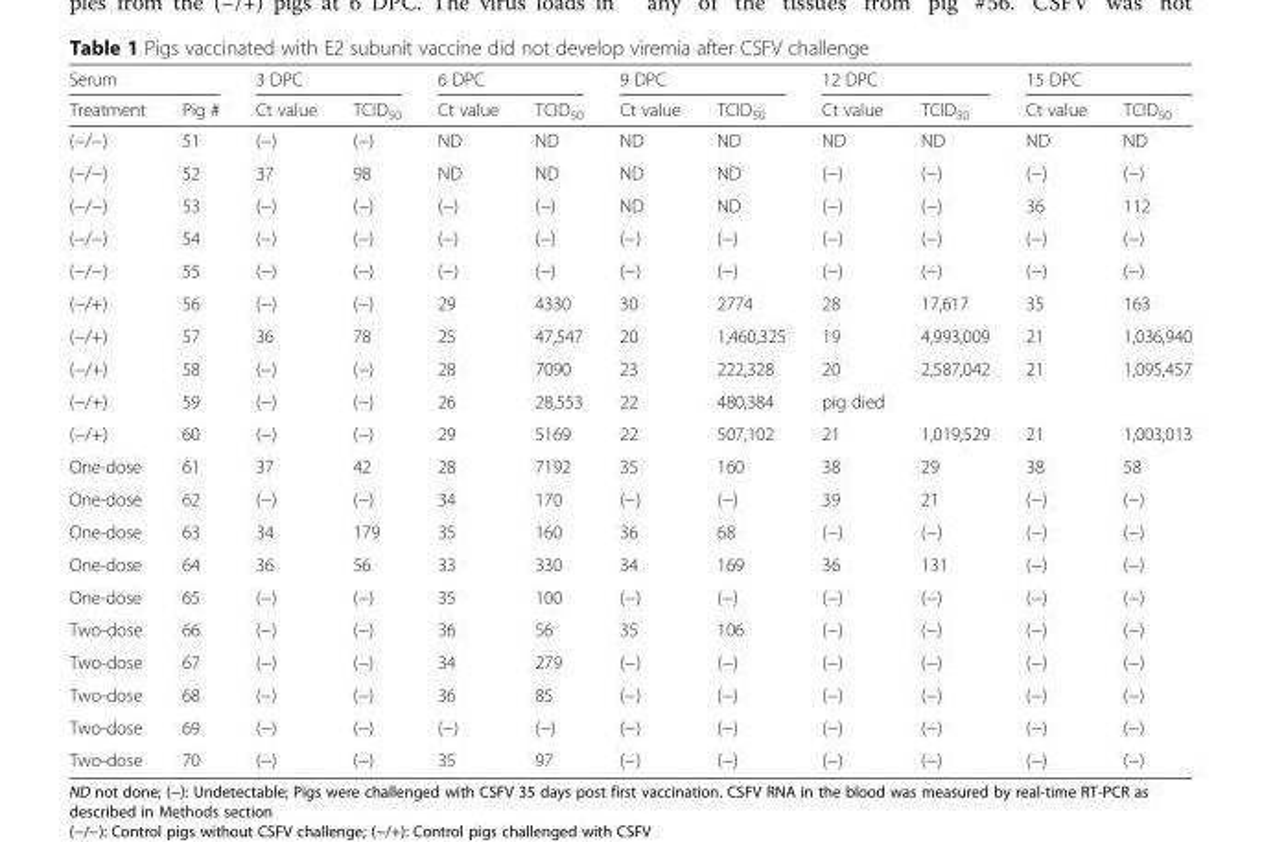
<table><thead><tr><td colspan="2">Serum</td><td colspan="2">3 DPC</td><td colspan="2">6 DPC</td><td colspan="2">9 DPC</td><td colspan="2">12 DPC</td><td colspan="2">15 DPC</td></tr><tr><td>Treatment</td><td>Pig #</td><td>Ct value</td><td>TCID<sub>50</sub></td><td>Ct value</td><td>TCID<sub>50</sub></td><td>Ct value</td><td>TCID<sub>50</sub></td><td>Ct value</td><td>TCID<sub>50</sub></td><td>Ct value</td><td>TCID<sub>50</sub></td></tr></thead><tbody><tr><td>(−/−)</td><td>51</td><td>(−)</td><td>(−)</td><td>ND</td><td>ND</td><td>ND</td><td>ND</td><td>ND</td><td>ND</td><td>ND</td><td>ND</td></tr><tr><td>(−/−)</td><td>52</td><td>37</td><td>98</td><td>ND</td><td>ND</td><td>ND</td><td>ND</td><td>(−)</td><td>(−)</td><td>(−)</td><td>(−)</td></tr><tr><td>(−/−)</td><td>53</td><td>(−)</td><td>(−)</td><td>(−)</td><td>(−)</td><td>ND</td><td>ND</td><td>(−)</td><td>(−)</td><td>36</td><td>112</td></tr><tr><td>(−/−)</td><td>54</td><td>(−)</td><td>(−)</td><td>(−)</td><td>(−)</td><td>(−)</td><td>(−)</td><td>(−)</td><td>(−)</td><td>(−)</td><td>(−)</td></tr><tr><td>(−/−)</td><td>55</td><td>(−)</td><td>(−)</td><td>(−)</td><td>(−)</td><td>(−)</td><td>(−)</td><td>(−)</td><td>(−)</td><td>(−)</td><td>(−)</td></tr><tr><td>(−/+)</td><td>56</td><td>(−)</td><td>(−)</td><td>29</td><td>4330</td><td>30</td><td>2774</td><td>28</td><td>17,617</td><td>35</td><td>163</td></tr><tr><td>(−/+)</td><td>57</td><td>36</td><td>78</td><td>25</td><td>47,547</td><td>20</td><td>1,460,325</td><td>19</td><td>4,993,009</td><td>21</td><td>1,036,940</td></tr><tr><td>(−/+)</td><td>58</td><td>(−)</td><td>(−)</td><td>28</td><td>7090</td><td>23</td><td>222,328</td><td>20</td><td>2,587,042</td><td>21</td><td>1,095,457</td></tr><tr><td>(−/+)</td><td>59</td><td>(−)</td><td>(−)</td><td>26</td><td>28,553</td><td>22</td><td>480,384</td><td>pig died</td><td></td><td></td><td></td></tr><tr><td>(−/+)</td><td>60</td><td>(−)</td><td>(−)</td><td>29</td><td>5169</td><td>22</td><td>507,102</td><td>21</td><td>1,019,529</td><td>21</td><td>1,003,013</td></tr><tr><td>One-dose</td><td>61</td><td>37</td><td>42</td><td>28</td><td>7192</td><td>35</td><td>160</td><td>38</td><td>29</td><td>38</td><td>58</td></tr><tr><td>One-dose</td><td>62</td><td>(−)</td><td>(−)</td><td>34</td><td>170</td><td>(−)</td><td>(−)</td><td>39</td><td>21</td><td>(−)</td><td>(−)</td></tr><tr><td>One-dose</td><td>63</td><td>34</td><td>179</td><td>35</td><td>160</td><td>36</td><td>68</td><td>(−)</td><td>(−)</td><td>(−)</td><td>(−)</td></tr><tr><td>One-dose</td><td>64</td><td>36</td><td>56</td><td>33</td><td>330</td><td>34</td><td>169</td><td>36</td><td>131</td><td>(−)</td><td>(−)</td></tr><tr><td>One-dose</td><td>65</td><td>(−)</td><td>(−)</td><td>35</td><td>100</td><td>(−)</td><td>(−)</td><td>(−)</td><td>(−)</td><td>(−)</td><td>(−)</td></tr><tr><td>Two-dose</td><td>66</td><td>(−)</td><td>(−)</td><td>36</td><td>56</td><td>35</td><td>106</td><td>(−)</td><td>(−)</td><td>(−)</td><td>(−)</td></tr><tr><td>Two-dose</td><td>67</td><td>(−)</td><td>(−)</td><td>34</td><td>279</td><td>(−)</td><td>(−)</td><td>(−)</td><td>(−)</td><td>(−)</td><td>(−)</td></tr><tr><td>Two-dose</td><td>68</td><td>(−)</td><td>(−)</td><td>36</td><td>85</td><td>(−)</td><td>(−)</td><td>(−)</td><td>(−)</td><td>(−)</td><td>(−)</td></tr><tr><td>Two-dose</td><td>69</td><td>(−)</td><td>(−)</td><td>(−)</td><td>(−)</td><td>(−)</td><td>(−)</td><td>(−)</td><td>(−)</td><td>(−)</td><td>(−)</td></tr><tr><td>Two-dose</td><td>70</td><td>(−)</td><td>(−)</td><td>35</td><td>97</td><td>(−)</td><td>(−)</td><td>(−)</td><td>(−)</td><td>(−)</td><td>(−)</td></tr></tbody></table>